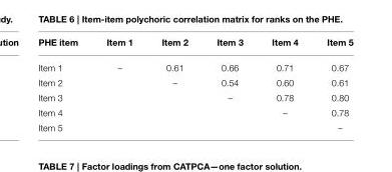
<table><thead><tr><td>PHE item</td><td>Item 1</td><td>Item 2</td><td>Item 3</td><td>Item 4</td><td>Item 5</td></tr></thead><tbody><tr><td>Item 1</td><td>–</td><td>0.61</td><td>0.66</td><td>0.71</td><td>0.67</td></tr><tr><td>Item 2</td><td></td><td>–</td><td>0.54</td><td>0.60</td><td>0.61</td></tr><tr><td>Item 3</td><td></td><td></td><td>–</td><td>0.78</td><td>0.80</td></tr><tr><td>Item 4</td><td></td><td></td><td></td><td>–</td><td>0.78</td></tr><tr><td>Item 5</td><td></td><td></td><td></td><td></td><td>–</td></tr></tbody></table>